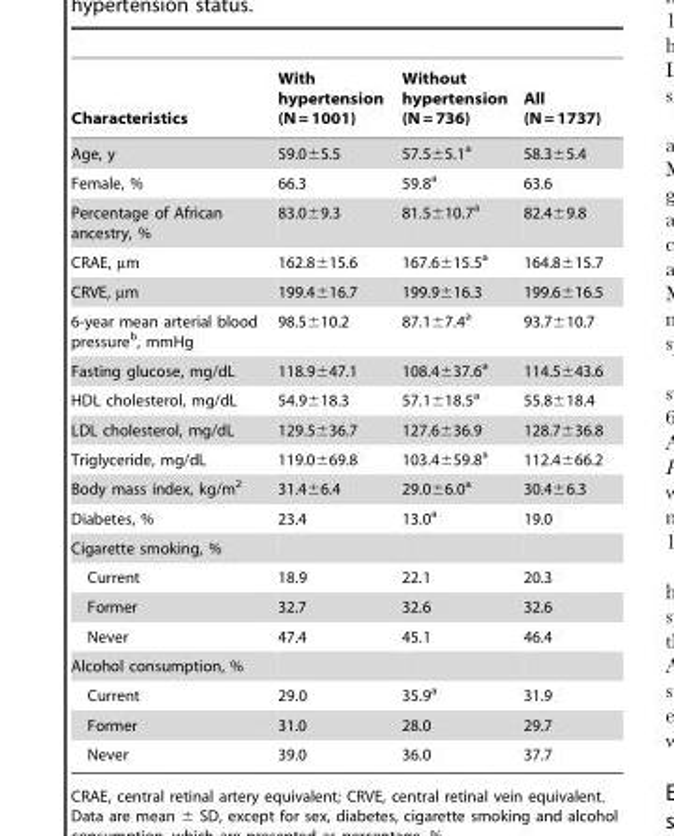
<table><thead><tr><td>Characteristics</td><td>With hypertension (N = 1001)</td><td>Without hypertension (N = 736)</td><td>All (N = 1737)</td></tr></thead><tbody><tr><td>Age, y</td><td>59.0±5.5</td><td>57.5±5.1<sup>a</sup></td><td>58.3±5.4</td></tr><tr><td>Female, %</td><td>66.3</td><td>59.8<sup>a</sup></td><td>63.6</td></tr><tr><td>Percentage of African ancestry, %</td><td>83.0±9.3</td><td>81.5±10.7<sup>a</sup></td><td>82.4±9.8</td></tr><tr><td>CRAE, µm</td><td>162.8±15.6</td><td>167.6±15.5<sup>a</sup></td><td>164.8±15.7</td></tr><tr><td>CRVE, µm</td><td>199.4±16.7</td><td>199.9±16.3</td><td>199.6±16.5</td></tr><tr><td>6-year mean arterial blood pressure<sup>b</sup>, mmHg</td><td>98.5±10.2</td><td>87.1±7.4<sup>a</sup></td><td>93.7±10.7</td></tr><tr><td>Fasting glucose, mg/dL</td><td>118.9±47.1</td><td>108.4±37.6<sup>a</sup></td><td>114.5±43.6</td></tr><tr><td>HDL cholesterol, mg/dL</td><td>54.9±18.3</td><td>57.1±18.5<sup>a</sup></td><td>55.8±18.4</td></tr><tr><td>LDL cholesterol, mg/dL</td><td>129.5±36.7</td><td>127.6±36.9</td><td>128.7±36.8</td></tr><tr><td>Triglyceride, mg/dL</td><td>119.0±69.8</td><td>103.4±59.8<sup>a</sup></td><td>112.4±66.2</td></tr><tr><td>Body mass index, kg/m<sup>2</sup></td><td>31.4±6.4</td><td>29.0±6.0<sup>a</sup></td><td>30.4±6.3</td></tr><tr><td>Diabetes, %</td><td>23.4</td><td>13.0<sup>a</sup></td><td>19.0</td></tr><tr><td colspan="4">Cigarette smoking, %</td></tr><tr><td>Current</td><td>18.9</td><td>22.1</td><td>20.3</td></tr><tr><td>Former</td><td>32.7</td><td>32.6</td><td>32.6</td></tr><tr><td>Never</td><td>47.4</td><td>45.1</td><td>46.4</td></tr><tr><td colspan="4">Alcohol consumption, %</td></tr><tr><td>Current</td><td>29.0</td><td>35.9<sup>a</sup></td><td>31.9</td></tr><tr><td>Former</td><td>31.0</td><td>28.0</td><td>29.7</td></tr><tr><td>Never</td><td>39.0</td><td>36.0</td><td>37.7</td></tr></tbody></table>